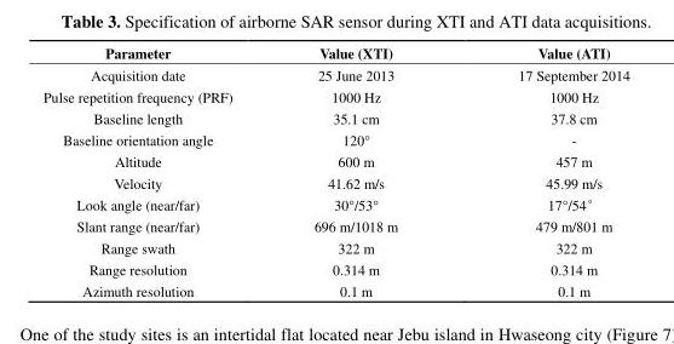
<table><thead><tr><td>Parameter</td><td>Value (XTI)</td><td>Value (ATI)</td></tr></thead><tbody><tr><td>Acquisition date</td><td>25 June 2013</td><td>17 September 2014</td></tr><tr><td>Pulse repetition frequency (PRF)</td><td>1000 Hz</td><td>1000 Hz</td></tr><tr><td>Baseline length</td><td>35.1 cm</td><td>37.8 cm</td></tr><tr><td>Baseline orientation angle</td><td>120°</td><td>-</td></tr><tr><td>Altitude</td><td>600 m</td><td>457 m</td></tr><tr><td>Velocity</td><td>41.62 m/s</td><td>45.99 m/s</td></tr><tr><td>Look angle (near/far)</td><td>30°/53°</td><td>17°/54°</td></tr><tr><td>Slant range (near/far)</td><td>696 m/1018 m</td><td>479 m/801 m</td></tr><tr><td>Range swath</td><td>322 m</td><td>322 m</td></tr><tr><td>Range resolution</td><td>0.314 m</td><td>0.314 m</td></tr><tr><td>Azimuth resolution</td><td>0.1 m</td><td>0.1 m</td></tr></tbody></table>